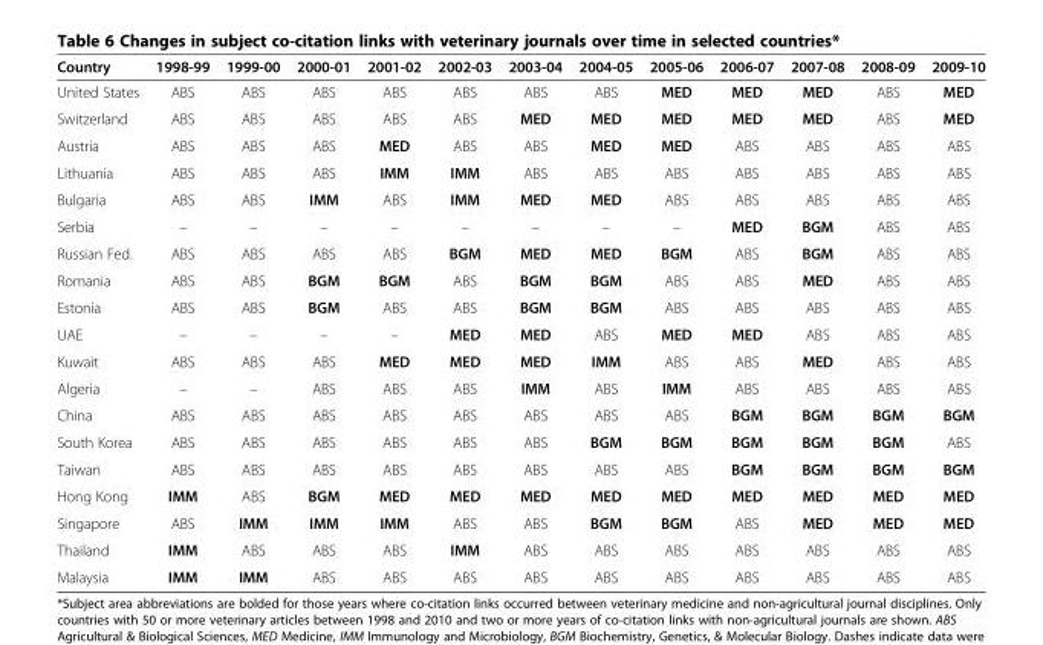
<table><thead><tr><td>Country</td><td>1998-99</td><td>1999-00</td><td>2000-01</td><td>2001-02</td><td>2002-03</td><td>2003-04</td><td>2004-05</td><td>2005-06</td><td>2006-07</td><td>2007-08</td><td>2008-09</td><td>2009-10</td></tr></thead><tbody><tr><td>United States</td><td>ABS</td><td>ABS</td><td>ABS</td><td>ABS</td><td>ABS</td><td>ABS</td><td>ABS</td><td>MED</td><td>MED</td><td>MED</td><td>ABS</td><td>MED</td></tr><tr><td>Switzerland</td><td>ABS</td><td>ABS</td><td>ABS</td><td>ABS</td><td>ABS</td><td>MED</td><td>MED</td><td>MED</td><td>MED</td><td>MED</td><td>ABS</td><td>MED</td></tr><tr><td>Austria</td><td>ABS</td><td>ABS</td><td>ABS</td><td>MED</td><td>ABS</td><td>ABS</td><td>MED</td><td>MED</td><td>ABS</td><td>ABS</td><td>ABS</td><td>ABS</td></tr><tr><td>Lithuania</td><td>ABS</td><td>ABS</td><td>ABS</td><td>IMM</td><td>IMM</td><td>ABS</td><td>ABS</td><td>ABS</td><td>ABS</td><td>ABS</td><td>ABS</td><td>ABS</td></tr><tr><td>Bulgaria</td><td>ABS</td><td>ABS</td><td>IMM</td><td>ABS</td><td>IMM</td><td>MED</td><td>MED</td><td>ABS</td><td>ABS</td><td>ABS</td><td>ABS</td><td>ABS</td></tr><tr><td>Serbia</td><td>–</td><td>–</td><td>–</td><td>–</td><td>–</td><td>–</td><td>–</td><td>–</td><td>MED</td><td>BGM</td><td>ABS</td><td>ABS</td></tr><tr><td>Russian Fed.</td><td>ABS</td><td>ABS</td><td>ABS</td><td>ABS</td><td>BGM</td><td>MED</td><td>MED</td><td>BGM</td><td>ABS</td><td>BGM</td><td>ABS</td><td>ABS</td></tr><tr><td>Romania</td><td>ABS</td><td>ABS</td><td>BGM</td><td>BGM</td><td>ABS</td><td>BGM</td><td>BGM</td><td>ABS</td><td>ABS</td><td>MED</td><td>ABS</td><td>ABS</td></tr><tr><td>Estonia</td><td>ABS</td><td>ABS</td><td>BGM</td><td>ABS</td><td>ABS</td><td>BGM</td><td>BGM</td><td>ABS</td><td>ABS</td><td>ABS</td><td>ABS</td><td>ABS</td></tr><tr><td>UAE</td><td>–</td><td>–</td><td>–</td><td>–</td><td>MED</td><td>MED</td><td>ABS</td><td>MED</td><td>MED</td><td>ABS</td><td>ABS</td><td>ABS</td></tr><tr><td>Kuwait</td><td>ABS</td><td>ABS</td><td>ABS</td><td>MED</td><td>MED</td><td>MED</td><td>IMM</td><td>ABS</td><td>ABS</td><td>MED</td><td>ABS</td><td>ABS</td></tr><tr><td>Algeria</td><td>–</td><td>–</td><td>ABS</td><td>ABS</td><td>ABS</td><td>IMM</td><td>ABS</td><td>IMM</td><td>ABS</td><td>ABS</td><td>ABS</td><td>ABS</td></tr><tr><td>China</td><td>ABS</td><td>ABS</td><td>ABS</td><td>ABS</td><td>ABS</td><td>ABS</td><td>ABS</td><td>ABS</td><td>BGM</td><td>BGM</td><td>BGM</td><td>BGM</td></tr><tr><td>South Korea</td><td>ABS</td><td>ABS</td><td>ABS</td><td>ABS</td><td>ABS</td><td>ABS</td><td>BGM</td><td>BGM</td><td>BGM</td><td>BGM</td><td>BGM</td><td>ABS</td></tr><tr><td>Taiwan</td><td>ABS</td><td>ABS</td><td>ABS</td><td>ABS</td><td>ABS</td><td>ABS</td><td>ABS</td><td>ABS</td><td>BGM</td><td>BGM</td><td>BGM</td><td>BGM</td></tr><tr><td>Hong Kong</td><td>IMM</td><td>ABS</td><td>BGM</td><td>MED</td><td>MED</td><td>MED</td><td>MED</td><td>MED</td><td>MED</td><td>MED</td><td>MED</td><td>MED</td></tr><tr><td>Singapore</td><td>ABS</td><td>IMM</td><td>IMM</td><td>IMM</td><td>ABS</td><td>ABS</td><td>BGM</td><td>BGM</td><td>ABS</td><td>MED</td><td>MED</td><td>MED</td></tr><tr><td>Thailand</td><td>IMM</td><td>ABS</td><td>ABS</td><td>ABS</td><td>IMM</td><td>ABS</td><td>ABS</td><td>ABS</td><td>ABS</td><td>ABS</td><td>ABS</td><td>ABS</td></tr><tr><td>Malaysia</td><td>IMM</td><td>IMM</td><td>ABS</td><td>ABS</td><td>ABS</td><td>ABS</td><td>ABS</td><td>ABS</td><td>ABS</td><td>ABS</td><td>ABS</td><td>ABS</td></tr></tbody></table>